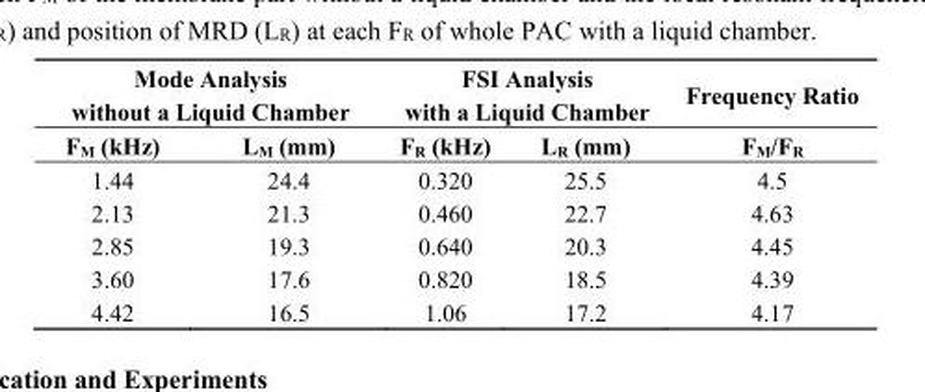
<table><thead><tr><td colspan="2">Mode Analysis without a Liquid Chamber</td><td colspan="2">FSI Analysis with a Liquid Chamber</td><td rowspan="2">Frequency Ratio F<sub>M</sub>/F<sub>R</sub></td></tr><tr><td>F<sub>M</sub> (kHz)</td><td>L<sub>M</sub> (mm)</td><td>F<sub>R</sub> (kHz)</td><td>L<sub>R</sub> (mm)</td></tr></thead><tbody><tr><td>1.44</td><td>24.4</td><td>0.320</td><td>25.5</td><td>4.5</td></tr><tr><td>2.13</td><td>21.3</td><td>0.460</td><td>22.7</td><td>4.63</td></tr><tr><td>2.85</td><td>19.3</td><td>0.640</td><td>20.3</td><td>4.45</td></tr><tr><td>3.60</td><td>17.6</td><td>0.820</td><td>18.5</td><td>4.39</td></tr><tr><td>4.42</td><td>16.5</td><td>1.06</td><td>17.2</td><td>4.17</td></tr></tbody></table>